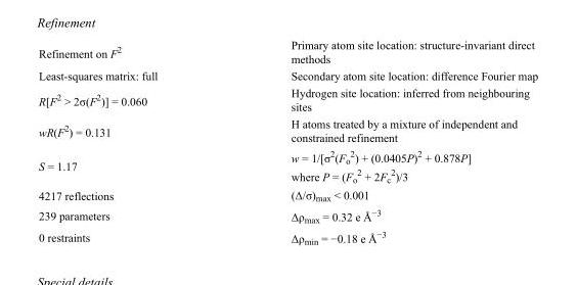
<table><tbody><tr><td>Refinement on F<sup>2</sup></td><td>Primary atom site location: structure-invariant direct methods</td></tr><tr><td>Least-squares matrix: full</td><td>Secondary atom site location: difference Fourier map</td></tr><tr><td>R[F<sup>2</sup> &gt; 2σ(F<sup>2</sup>)] = 0.060</td><td>Hydrogen site location: inferred from neighbouring sites</td></tr><tr><td>wR(F<sup>2</sup>) = 0.131</td><td>H atoms treated by a mixture of independent and constrained refinement</td></tr><tr><td>S = 1.17</td><td>w = 1/[σ<sup>2</sup>(F<sub>o</sub> <sup>2</sup>) + (0.0405P)<sup>2</sup> + 0.878P] where P = (F<sub>o</sub> <sup>2</sup> + 2F<sub>c</sub> <sup>2</sup>)/3</td></tr><tr><td>4217 reflections</td><td>(Δ/σ)<sub>max</sub> &lt; 0.001</td></tr><tr><td>239 parameters</td><td>Δρ<sub>max</sub> = 0.32 e Å<sup>−3</sup></td></tr><tr><td>0 restraints</td><td>Δρ<sub>min</sub> = −0.18 e Å<sup>−3</sup></td></tr></tbody></table>